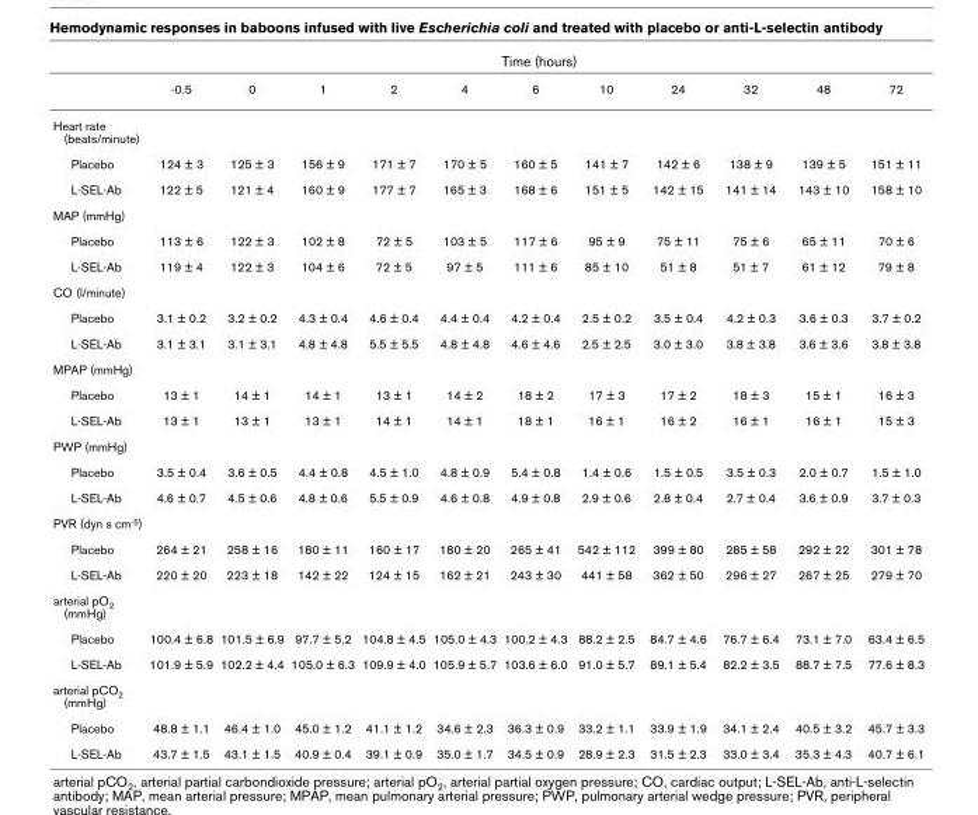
<table><thead><tr><td rowspan="2"></td><td colspan="11">Time (hours)</td></tr><tr><td>-0.5</td><td>0</td><td>1</td><td>2</td><td>4</td><td>6</td><td>10</td><td>24</td><td>32</td><td>48</td><td>72</td></tr></thead><tbody><tr><td colspan="12">Heart rate (beats/minute)</td></tr><tr><td>Placebo</td><td>124 ± 3</td><td>125 ± 3</td><td>156 ± 9</td><td>171 ± 7</td><td>170 ± 5</td><td>160 ± 5</td><td>141 ± 7</td><td>142 ± 6</td><td>138 ± 9</td><td>139 ± 5</td><td>151 ± 11</td></tr><tr><td>L-SEL-Ab</td><td>122 ± 5</td><td>121 ± 4</td><td>160 ± 9</td><td>177 ± 7</td><td>165 ± 3</td><td>168 ± 6</td><td>151 ± 5</td><td>142 ± 15</td><td>141 ± 14</td><td>143 ± 10</td><td>158 ± 10</td></tr><tr><td colspan="12">MAP (mmHg)</td></tr><tr><td>Placebo</td><td>113 ± 6</td><td>122 ± 3</td><td>102 ± 8</td><td>72 ± 5</td><td>103 ± 5</td><td>117 ± 6</td><td>95 ± 9</td><td>75 ± 11</td><td>75 ± 6</td><td>65 ± 11</td><td>70 ± 6</td></tr><tr><td>L-SEL-Ab</td><td>119 ± 4</td><td>122 ± 3</td><td>104 ± 6</td><td>72 ± 5</td><td>97 ± 5</td><td>111 ± 6</td><td>85 ± 10</td><td>51 ± 8</td><td>51 ± 7</td><td>61 ± 12</td><td>79 ± 8</td></tr><tr><td colspan="12">CO (l/minute)</td></tr><tr><td>Placebo</td><td>3.1 ± 0.2</td><td>3.2 ± 0.2</td><td>4.3 ± 0.4</td><td>4.6 ± 0.4</td><td>4.4 ± 0.4</td><td>4.2 ± 0.4</td><td>2.5 ± 0.2</td><td>3.5 ± 0.4</td><td>4.2 ± 0.3</td><td>3.6 ± 0.3</td><td>3.7 ± 0.2</td></tr><tr><td>L-SEL-Ab</td><td>3.1 ± 3.1</td><td>3.1 ± 3.1</td><td>4.8 ± 4.8</td><td>5.5 ± 5.5</td><td>4.8 ± 4.8</td><td>4.6 ± 4.6</td><td>2.5 ± 2.5</td><td>3.0 ± 3.0</td><td>3.8 ± 3.8</td><td>3.6 ± 3.6</td><td>3.8 ± 3.8</td></tr><tr><td colspan="12">MPAP (mmHg)</td></tr><tr><td>Placebo</td><td>13 ± 1</td><td>14 ± 1</td><td>14 ± 1</td><td>13 ± 1</td><td>14 ± 2</td><td>18 ± 2</td><td>17 ± 3</td><td>17 ± 2</td><td>18 ± 3</td><td>15 ± 1</td><td>16 ± 3</td></tr><tr><td>L-SEL-Ab</td><td>13 ± 1</td><td>13 ± 1</td><td>13 ± 1</td><td>14 ± 1</td><td>14 ± 1</td><td>18 ± 1</td><td>16 ± 1</td><td>16 ± 2</td><td>16 ± 1</td><td>16 ± 1</td><td>15 ± 3</td></tr><tr><td colspan="12">PWP (mmHg)</td></tr><tr><td>Placebo</td><td>3.5 ± 0.4</td><td>3.6 ± 0.5</td><td>4.4 ± 0.8</td><td>4.5 ± 1.0</td><td>4.8 ± 0.9</td><td>5.4 ± 0.8</td><td>1.4 ± 0.6</td><td>1.5 ± 0.5</td><td>3.5 ± 0.3</td><td>2.0 ± 0.7</td><td>1.5 ± 1.0</td></tr><tr><td>L-SEL-Ab</td><td>4.6 ± 0.7</td><td>4.5 ± 0.6</td><td>4.8 ± 0.6</td><td>5.5 ± 0.9</td><td>4.6 ± 0.8</td><td>4.9 ± 0.8</td><td>2.9 ± 0.6</td><td>2.8 ± 0.4</td><td>2.7 ± 0.4</td><td>3.6 ± 0.9</td><td>3.7 ± 0.3</td></tr><tr><td colspan="12">PVR (dyn s cm-5)</td></tr><tr><td>Placebo</td><td>264 ± 21</td><td>258 ± 16</td><td>180 ± 11</td><td>160 ± 17</td><td>180 ± 20</td><td>265 ± 41</td><td>542 ± 112</td><td>399 ± 80</td><td>285 ± 58</td><td>292 ± 22</td><td>301 ± 78</td></tr><tr><td>L-SEL-Ab</td><td>220 ± 20</td><td>223 ± 18</td><td>142 ± 22</td><td>124 ± 15</td><td>162 ± 21</td><td>243 ± 30</td><td>441 ± 58</td><td>362 ± 50</td><td>296 ± 27</td><td>267 ± 25</td><td>279 ± 70</td></tr><tr><td colspan="12">arterial pO2 (mmHg)</td></tr><tr><td>Placebo</td><td>100.4 ± 6.8</td><td>101.5 ± 6.9</td><td>97.7 ± 5.2</td><td>104.8 ± 4.5</td><td>105.0 ± 4.3</td><td>100.2 ± 4.3</td><td>88.2 ± 2.5</td><td>84.7 ± 4.6</td><td>76.7 ± 6.4</td><td>73.1 ± 7.0</td><td>63.4 ± 6.5</td></tr><tr><td>L-SEL-Ab</td><td>101.9 ± 5.9</td><td>102.2 ± 4.4</td><td>105.0 ± 6.3</td><td>109.9 ± 4.0</td><td>105.9 ± 5.7</td><td>103.6 ± 6.0</td><td>91.0 ± 5.7</td><td>89.1 ± 5.4</td><td>82.2 ± 3.5</td><td>88.7 ± 7.5</td><td>77.6 ± 8.3</td></tr><tr><td colspan="12">arterial pCO2 (mmHg)</td></tr><tr><td>Placebo</td><td>48.8 ± 1.1</td><td>46.4 ± 1.0</td><td>45.0 ± 1.2</td><td>41.1 ± 1.2</td><td>34.6 ± 2.3</td><td>36.3 ± 0.9</td><td>33.2 ± 1.1</td><td>33.9 ± 1.9</td><td>34.1 ± 2.4</td><td>40.5 ± 3.2</td><td>45.7 ± 3.3</td></tr><tr><td>L-SEL-Ab</td><td>43.7 ± 1.5</td><td>43.1 ± 1.5</td><td>40.9 ± 0.4</td><td>39.1 ± 0.9</td><td>35.0 ± 1.7</td><td>34.5 ± 0.9</td><td>28.9 ± 2.3</td><td>31.5 ± 2.3</td><td>33.0 ± 3.4</td><td>35.3 ± 4.3</td><td>40.7 ± 6.1</td></tr></tbody></table>